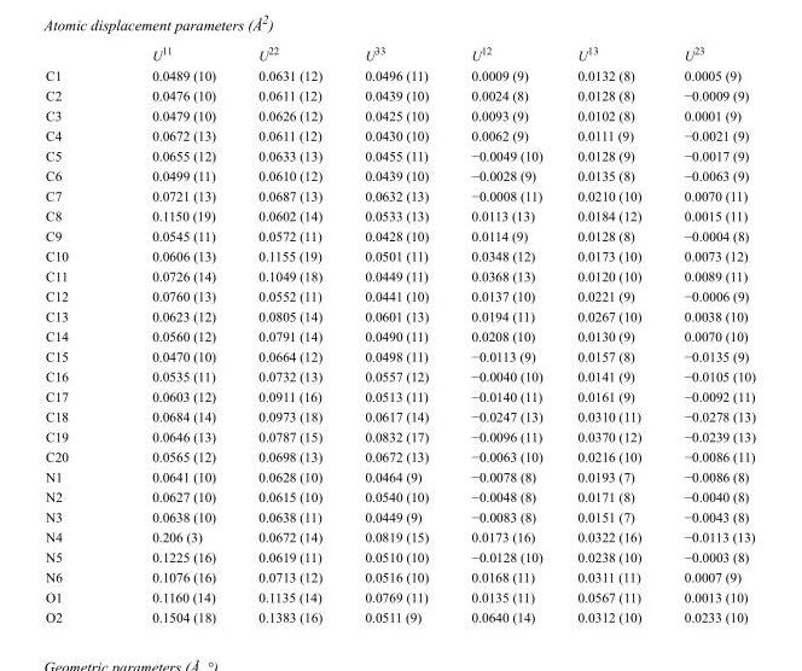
<table><thead><tr><td></td><td>U<sup>11</sup></td><td>U<sup>22</sup></td><td>U<sup>33</sup></td><td>U<sup>12</sup></td><td>U<sup>13</sup></td><td>U<sup>23</sup></td></tr></thead><tbody><tr><td>C1</td><td>0.0489 (10)</td><td>0.0631 (12)</td><td>0.0496 (11)</td><td>0.0009 (9)</td><td>0.0132 (8)</td><td>0.0005 (9)</td></tr><tr><td>C2</td><td>0.0476 (10)</td><td>0.0611 (12)</td><td>0.0439 (10)</td><td>0.0024 (8)</td><td>0.0128 (8)</td><td>−0.0009 (9)</td></tr><tr><td>C3</td><td>0.0479 (10)</td><td>0.0626 (12)</td><td>0.0425 (10)</td><td>0.0093 (9)</td><td>0.0102 (8)</td><td>0.0001 (9)</td></tr><tr><td>C4</td><td>0.0672 (13)</td><td>0.0611 (12)</td><td>0.0430 (10)</td><td>0.0062 (9)</td><td>0.0111 (9)</td><td>−0.0021 (9)</td></tr><tr><td>C5</td><td>0.0655 (12)</td><td>0.0633 (13)</td><td>0.0455 (11)</td><td>−0.0049 (10)</td><td>0.0128 (9)</td><td>−0.0017 (9)</td></tr><tr><td>C6</td><td>0.0499 (11)</td><td>0.0610 (12)</td><td>0.0439 (10)</td><td>−0.0028 (9)</td><td>0.0135 (8)</td><td>−0.0063 (9)</td></tr><tr><td>C7</td><td>0.0721 (13)</td><td>0.0687 (13)</td><td>0.0632 (13)</td><td>−0.0008 (11)</td><td>0.0210 (10)</td><td>0.0070 (11)</td></tr><tr><td>C8</td><td>0.1150 (19)</td><td>0.0602 (14)</td><td>0.0533 (13)</td><td>0.0113 (13)</td><td>0.0184 (12)</td><td>0.0015 (11)</td></tr><tr><td>C9</td><td>0.0545 (11)</td><td>0.0572 (11)</td><td>0.0428 (10)</td><td>0.0114 (9)</td><td>0.0128 (8)</td><td>−0.0004 (8)</td></tr><tr><td>C10</td><td>0.0606 (13)</td><td>0.1155 (19)</td><td>0.0501 (11)</td><td>0.0348 (12)</td><td>0.0173 (10)</td><td>0.0073 (12)</td></tr><tr><td>C11</td><td>0.0726 (14)</td><td>0.1049 (18)</td><td>0.0449 (11)</td><td>0.0368 (13)</td><td>0.0120 (10)</td><td>0.0089 (11)</td></tr><tr><td>C12</td><td>0.0760 (13)</td><td>0.0552 (11)</td><td>0.0441 (10)</td><td>0.0137 (10)</td><td>0.0221 (9)</td><td>−0.0006 (9)</td></tr><tr><td>C13</td><td>0.0623 (12)</td><td>0.0805 (14)</td><td>0.0601 (13)</td><td>0.0194 (11)</td><td>0.0267 (10)</td><td>0.0038 (10)</td></tr><tr><td>C14</td><td>0.0560 (12)</td><td>0.0791 (14)</td><td>0.0490 (11)</td><td>0.0208 (10)</td><td>0.0130 (9)</td><td>0.0070 (10)</td></tr><tr><td>C15</td><td>0.0470 (10)</td><td>0.0664 (12)</td><td>0.0498 (11)</td><td>−0.0113 (9)</td><td>0.0157 (8)</td><td>−0.0135 (9)</td></tr><tr><td>C16</td><td>0.0535 (11)</td><td>0.0732 (13)</td><td>0.0557 (12)</td><td>−0.0040 (10)</td><td>0.0141 (9)</td><td>−0.0105 (10)</td></tr><tr><td>C17</td><td>0.0603 (12)</td><td>0.0911 (16)</td><td>0.0513 (11)</td><td>−0.0140 (11)</td><td>0.0161 (9)</td><td>−0.0092 (11)</td></tr><tr><td>C18</td><td>0.0684 (14)</td><td>0.0973 (18)</td><td>0.0617 (14)</td><td>−0.0247 (13)</td><td>0.0310 (11)</td><td>−0.0278 (13)</td></tr><tr><td>C19</td><td>0.0646 (13)</td><td>0.0787 (15)</td><td>0.0832 (17)</td><td>−0.0096 (11)</td><td>0.0370 (12)</td><td>−0.0239 (13)</td></tr><tr><td>C20</td><td>0.0565 (12)</td><td>0.0698 (13)</td><td>0.0672 (13)</td><td>−0.0063 (10)</td><td>0.0216 (10)</td><td>−0.0086 (11)</td></tr><tr><td>N1</td><td>0.0641 (10)</td><td>0.0628 (10)</td><td>0.0464 (9)</td><td>−0.0078 (8)</td><td>0.0193 (7)</td><td>−0.0086 (8)</td></tr><tr><td>N2</td><td>0.0627 (10)</td><td>0.0615 (10)</td><td>0.0540 (10)</td><td>−0.0048 (8)</td><td>0.0171 (8)</td><td>−0.0040 (8)</td></tr><tr><td>N3</td><td>0.0638 (10)</td><td>0.0638 (11)</td><td>0.0449 (9)</td><td>−0.0083 (8)</td><td>0.0151 (7)</td><td>−0.0043 (8)</td></tr><tr><td>N4</td><td>0.206 (3)</td><td>0.0672 (14)</td><td>0.0819 (15)</td><td>0.0173 (16)</td><td>0.0322 (16)</td><td>−0.0113 (13)</td></tr><tr><td>N5</td><td>0.1225 (16)</td><td>0.0619 (11)</td><td>0.0510 (10)</td><td>−0.0128 (10)</td><td>0.0238 (10)</td><td>−0.0003 (8)</td></tr><tr><td>N6</td><td>0.1076 (16)</td><td>0.0713 (12)</td><td>0.0516 (10)</td><td>0.0168 (11)</td><td>0.0311 (11)</td><td>0.0007 (9)</td></tr><tr><td>O1</td><td>0.1160 (14)</td><td>0.1135 (14)</td><td>0.0769 (11)</td><td>0.0135 (11)</td><td>0.0567 (11)</td><td>0.0013 (10)</td></tr><tr><td>O2</td><td>0.1504 (18)</td><td>0.1383 (16)</td><td>0.0511 (9)</td><td>0.0640 (14)</td><td>0.0312 (10)</td><td>0.0233 (10)</td></tr></tbody></table>